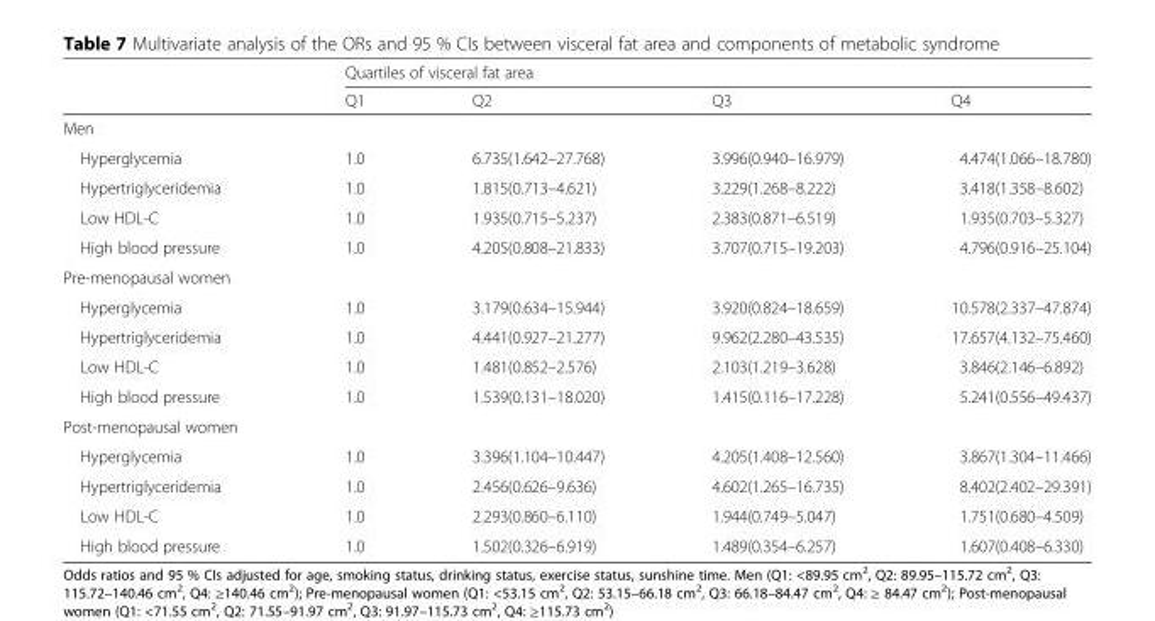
<table><thead><tr><td rowspan="2"></td><td colspan="4">Quartiles of visceral fat area</td></tr><tr><td>Q1</td><td>Q2</td><td>Q3</td><td>Q4</td></tr></thead><tbody><tr><td colspan="5">Men</td></tr><tr><td>Hyperglycemia</td><td>1.0</td><td>6.735(1.642–27.768)</td><td>3.996(0.940–16.979)</td><td>4.474(1.066–18.780)</td></tr><tr><td>Hypertriglyceridemia</td><td>1.0</td><td>1.815(0.713–4.621)</td><td>3.229(1.268–8.222)</td><td>3.418(1.358–8.602)</td></tr><tr><td>Low HDL-C</td><td>1.0</td><td>1.935(0.715–5.237)</td><td>2.383(0.871–6.519)</td><td>1.935(0.703–5.327)</td></tr><tr><td>High blood pressure</td><td>1.0</td><td>4.205(0.808–21.833)</td><td>3.707(0.715–19.203)</td><td>4.796(0.916–25.104)</td></tr><tr><td colspan="5">Pre-menopausal women</td></tr><tr><td>Hyperglycemia</td><td>1.0</td><td>3.179(0.634–15.944)</td><td>3.920(0.824–18.659)</td><td>10.578(2.337–47.874)</td></tr><tr><td>Hypertriglyceridemia</td><td>1.0</td><td>4.441(0.927–21.277)</td><td>9.962(2.280–43.535)</td><td>17.657(4.132–75.460)</td></tr><tr><td>Low HDL-C</td><td>1.0</td><td>1.481(0.852–2.576)</td><td>2.103(1.219–3.628)</td><td>3.846(2.146–6.892)</td></tr><tr><td>High blood pressure</td><td>1.0</td><td>1.539(0.131–18.020)</td><td>1.415(0.116–17.228)</td><td>5.241(0.556–49.437)</td></tr><tr><td colspan="5">Post-menopausal women</td></tr><tr><td>Hyperglycemia</td><td>1.0</td><td>3.396(1.104–10.447)</td><td>4.205(1.408–12.560)</td><td>3.867(1.304–11.466)</td></tr><tr><td>Hypertriglyceridemia</td><td>1.0</td><td>2.456(0.626–9.636)</td><td>4.602(1.265–16.735)</td><td>8.402(2.402–29.391)</td></tr><tr><td>Low HDL-C</td><td>1.0</td><td>2.293(0.860–6.110)</td><td>1.944(0.749–5.047)</td><td>1.751(0.680–4.509)</td></tr><tr><td>High blood pressure</td><td>1.0</td><td>1.502(0.326–6.919)</td><td>1.489(0.354–6.257)</td><td>1.607(0.408–6.330)</td></tr></tbody></table>